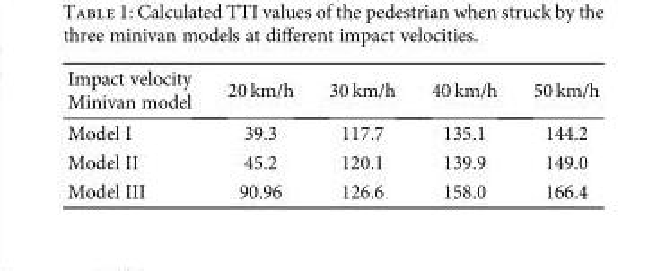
<table><thead><tr><td rowspan="2">Impact velocity Minivan model</td><td rowspan="2">20 km/h</td><td rowspan="2">30 km/h</td><td rowspan="2">40 km/h</td><td rowspan="2">50 km/h</td></tr><tr></tr></thead><tbody><tr><td>Model I</td><td>39.3</td><td>117.7</td><td>135.1</td><td>144.2</td></tr><tr><td>Model II</td><td>45.2</td><td>120.1</td><td>139.9</td><td>149.0</td></tr><tr><td>Model III</td><td>90.96</td><td>126.6</td><td>158.0</td><td>166.4</td></tr></tbody></table>